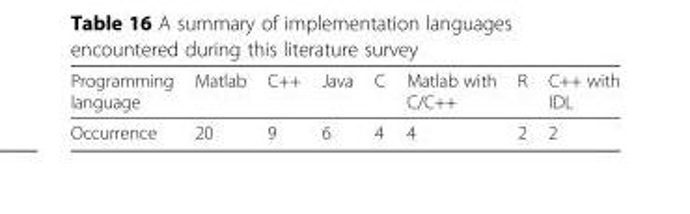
<table><thead><tr><td>Programming language</td><td>Matlab</td><td>C++</td><td>Java</td><td>C</td><td>Matlab with C/C++</td><td>R</td><td>C++ with IDL</td></tr></thead><tbody><tr><td>Occurrence</td><td>20</td><td>9</td><td>6</td><td>4</td><td>4</td><td>2</td><td>2</td></tr></tbody></table>